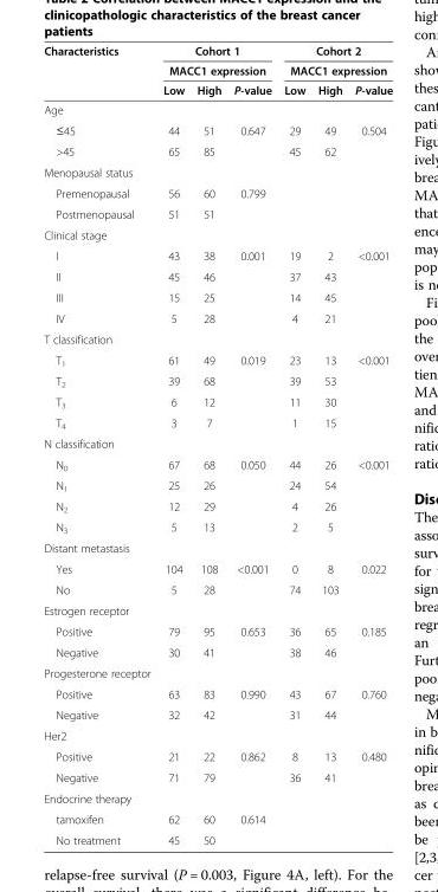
<table><thead><tr><td rowspan="3">Characteristics</td><td rowspan="2" colspan="3">Cohort 1 MACC1 expression</td><td rowspan="2" colspan="3">Cohort 2 MACC1 expression</td></tr><tr></tr><tr><td>Low</td><td>High</td><td>P-value</td><td>Low</td><td>High</td><td>P-value</td></tr></thead><tbody><tr><td colspan="7">Age</td></tr><tr><td>≤45</td><td>44</td><td>51</td><td>0.647</td><td>29</td><td>49</td><td>0.504</td></tr><tr><td>&gt;45</td><td>65</td><td>85</td><td></td><td>45</td><td>62</td><td></td></tr><tr><td colspan="7">Menopausal status</td></tr><tr><td>Premenopausal</td><td>56</td><td>60</td><td>0.799</td><td></td><td></td><td></td></tr><tr><td>Postmenopausal</td><td>51</td><td>51</td><td></td><td></td><td></td><td></td></tr><tr><td colspan="7">Clinical stage</td></tr><tr><td>I</td><td>43</td><td>38</td><td>0.001</td><td>19</td><td>2</td><td>&lt;0.001</td></tr><tr><td>II</td><td>45</td><td>46</td><td></td><td>37</td><td>43</td><td></td></tr><tr><td>III</td><td>15</td><td>25</td><td></td><td>14</td><td>45</td><td></td></tr><tr><td>IV</td><td>5</td><td>28</td><td></td><td>4</td><td>21</td><td></td></tr><tr><td colspan="7">T classification</td></tr><tr><td>T<sub>1</sub></td><td>61</td><td>49</td><td>0.019</td><td>23</td><td>13</td><td>&lt;0.001</td></tr><tr><td>T<sub>2</sub></td><td>39</td><td>68</td><td></td><td>39</td><td>53</td><td></td></tr><tr><td>T<sub>3</sub></td><td>6</td><td>12</td><td></td><td>11</td><td>30</td><td></td></tr><tr><td>T<sub>4</sub></td><td>3</td><td>7</td><td></td><td>1</td><td>15</td><td></td></tr><tr><td colspan="7">N classification</td></tr><tr><td>N<sub>0</sub></td><td>67</td><td>68</td><td>0.050</td><td>44</td><td>26</td><td>&lt;0.001</td></tr><tr><td>N<sub>1</sub></td><td>25</td><td>26</td><td></td><td>24</td><td>54</td><td></td></tr><tr><td>N<sub>2</sub></td><td>12</td><td>29</td><td></td><td>4</td><td>26</td><td></td></tr><tr><td>N<sub>3</sub></td><td>5</td><td>13</td><td></td><td>2</td><td>5</td><td></td></tr><tr><td colspan="7">Distant metastasis</td></tr><tr><td>Yes</td><td>104</td><td>108</td><td>&lt;0.001</td><td>0</td><td>8</td><td>0.022</td></tr><tr><td>No</td><td>5</td><td>28</td><td></td><td>74</td><td>103</td><td></td></tr><tr><td colspan="7">Estrogen receptor</td></tr><tr><td>Positive</td><td>79</td><td>95</td><td>0.653</td><td>36</td><td>65</td><td>0.185</td></tr><tr><td>Negative</td><td>30</td><td>41</td><td></td><td>38</td><td>46</td><td></td></tr><tr><td colspan="7">Progesterone receptor</td></tr><tr><td>Positive</td><td>63</td><td>83</td><td>0.990</td><td>43</td><td>67</td><td>0.760</td></tr><tr><td>Negative</td><td>32</td><td>42</td><td></td><td>31</td><td>44</td><td></td></tr><tr><td colspan="7">Her2</td></tr><tr><td>Positive</td><td>21</td><td>22</td><td>0.862</td><td>8</td><td>13</td><td>0.480</td></tr><tr><td>Negative</td><td>71</td><td>79</td><td></td><td>36</td><td>41</td><td></td></tr><tr><td colspan="7">Endocrine therapy</td></tr><tr><td>tamoxifen</td><td>62</td><td>60</td><td>0.614</td><td></td><td></td><td></td></tr><tr><td>No treatment</td><td>45</td><td>50</td><td></td><td></td><td></td><td></td></tr></tbody></table>